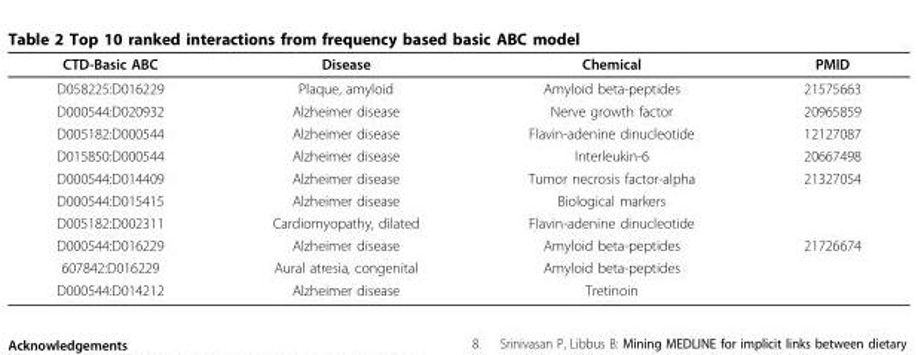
<table><thead><tr><td>CTD-Basic ABC</td><td>Disease</td><td>Chemical</td><td>PMID</td></tr></thead><tbody><tr><td>D058225:D016229</td><td>Plaque, amyloid</td><td>Amyloid beta-peptides</td><td>21575663</td></tr><tr><td>D000544:D020932</td><td>Alzheimer disease</td><td>Nerve growth factor</td><td>20965859</td></tr><tr><td>D005182:D000544</td><td>Alzheimer disease</td><td>Flavin-adenine dinucleotide</td><td>12127087</td></tr><tr><td>D015850:D000544</td><td>Alzheimer disease</td><td>Interleukin-6</td><td>20667498</td></tr><tr><td>D000544:D014409</td><td>Alzheimer disease</td><td>Tumor necrosis factor-alpha</td><td>21327054</td></tr><tr><td>D000544:D015415</td><td>Alzheimer disease</td><td>Biological markers</td><td></td></tr><tr><td>D005182:D002311</td><td>Cardiomyopathy, dilated</td><td>Flavin-adenine dinucleotide</td><td></td></tr><tr><td>D000544:D016229</td><td>Alzheimer disease</td><td>Amyloid beta-peptides</td><td>21726674</td></tr><tr><td>607842:D016229</td><td>Aural atresia, congenital</td><td>Amyloid beta-peptides</td><td></td></tr><tr><td>D000544:D014212</td><td>Alzheimer disease</td><td>Tretinoin</td><td></td></tr></tbody></table>